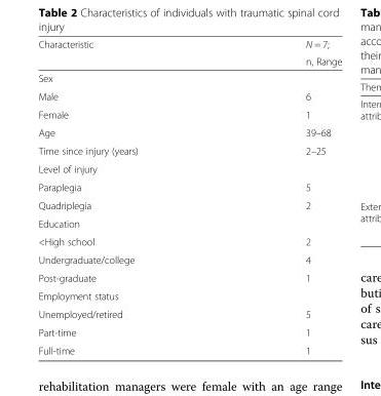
<table><thead><tr><td rowspan="2">Characteristic</td><td rowspan="2">N = 7; n, Range</td></tr><tr></tr></thead><tbody><tr><td colspan="2">Sex</td></tr><tr><td>Male</td><td>6</td></tr><tr><td>Female</td><td>1</td></tr><tr><td>Age</td><td>39–68</td></tr><tr><td>Time since injury (years)</td><td>2–25</td></tr><tr><td colspan="2">Level of injury</td></tr><tr><td>Paraplegia</td><td>5</td></tr><tr><td>Quadriplegia</td><td>2</td></tr><tr><td colspan="2">Education</td></tr><tr><td>&lt;High school</td><td>2</td></tr><tr><td>Undergraduate/college</td><td>4</td></tr><tr><td>Post-graduate</td><td>1</td></tr><tr><td colspan="2">Employment status</td></tr><tr><td>Unemployed/retired</td><td>5</td></tr><tr><td>Part-time</td><td>1</td></tr><tr><td>Full-time</td><td>1</td></tr></tbody></table>